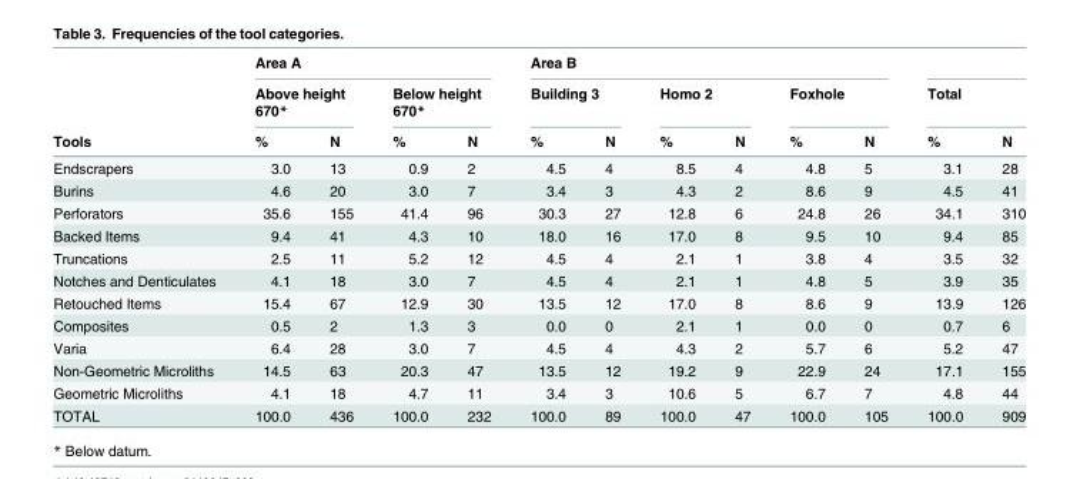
<table><thead><tr><td rowspan="3">Tools</td><td colspan="4">Area A</td><td colspan="6">Area B</td><td></td><td></td></tr><tr><td colspan="2">Above height 670*</td><td colspan="2">Below height 670*</td><td colspan="2">Building 3</td><td colspan="2">Homo 2</td><td colspan="2">Foxhole</td><td colspan="2">Total</td></tr><tr><td>%</td><td>N</td><td>%</td><td>N</td><td>%</td><td>N</td><td>%</td><td>N</td><td>%</td><td>N</td><td>%</td><td>N</td></tr></thead><tbody><tr><td>Endscrapers</td><td>3.0</td><td>13</td><td>0.9</td><td>2</td><td>4.5</td><td>4</td><td>8.5</td><td>4</td><td>4.8</td><td>5</td><td>3.1</td><td>28</td></tr><tr><td>Burins</td><td>4.6</td><td>20</td><td>3.0</td><td>7</td><td>3.4</td><td>3</td><td>4.3</td><td>2</td><td>8.6</td><td>9</td><td>4.5</td><td>41</td></tr><tr><td>Perforators</td><td>35.6</td><td>155</td><td>41.4</td><td>96</td><td>30.3</td><td>27</td><td>12.8</td><td>6</td><td>24.8</td><td>26</td><td>34.1</td><td>310</td></tr><tr><td>Backed Items</td><td>9.4</td><td>41</td><td>4.3</td><td>10</td><td>18.0</td><td>16</td><td>17.0</td><td>8</td><td>9.5</td><td>10</td><td>9.4</td><td>85</td></tr><tr><td>Truncations</td><td>2.5</td><td>11</td><td>5.2</td><td>12</td><td>4.5</td><td>4</td><td>2.1</td><td>1</td><td>3.8</td><td>4</td><td>3.5</td><td>32</td></tr><tr><td>Notches and Denticulates</td><td>4.1</td><td>18</td><td>3.0</td><td>7</td><td>4.5</td><td>4</td><td>2.1</td><td>1</td><td>4.8</td><td>5</td><td>3.9</td><td>35</td></tr><tr><td>Retouched Items</td><td>15.4</td><td>67</td><td>12.9</td><td>30</td><td>13.5</td><td>12</td><td>17.0</td><td>8</td><td>8.6</td><td>9</td><td>13.9</td><td>126</td></tr><tr><td>Composites</td><td>0.5</td><td>2</td><td>1.3</td><td>3</td><td>0.0</td><td>0</td><td>2.1</td><td>1</td><td>0.0</td><td>0</td><td>0.7</td><td>6</td></tr><tr><td>Varia</td><td>6.4</td><td>28</td><td>3.0</td><td>7</td><td>4.5</td><td>4</td><td>4.3</td><td>2</td><td>5.7</td><td>6</td><td>5.2</td><td>47</td></tr><tr><td>Non-Geometric Microliths</td><td>14.5</td><td>63</td><td>20.3</td><td>47</td><td>13.5</td><td>12</td><td>19.2</td><td>9</td><td>22.9</td><td>24</td><td>17.1</td><td>155</td></tr><tr><td>Geometric Microliths</td><td>4.1</td><td>18</td><td>4.7</td><td>11</td><td>3.4</td><td>3</td><td>10.6</td><td>5</td><td>6.7</td><td>7</td><td>4.8</td><td>44</td></tr><tr><td>TOTAL</td><td>100.0</td><td>436</td><td>100.0</td><td>232</td><td>100.0</td><td>89</td><td>100.0</td><td>47</td><td>100.0</td><td>105</td><td>100.0</td><td>909</td></tr></tbody></table>